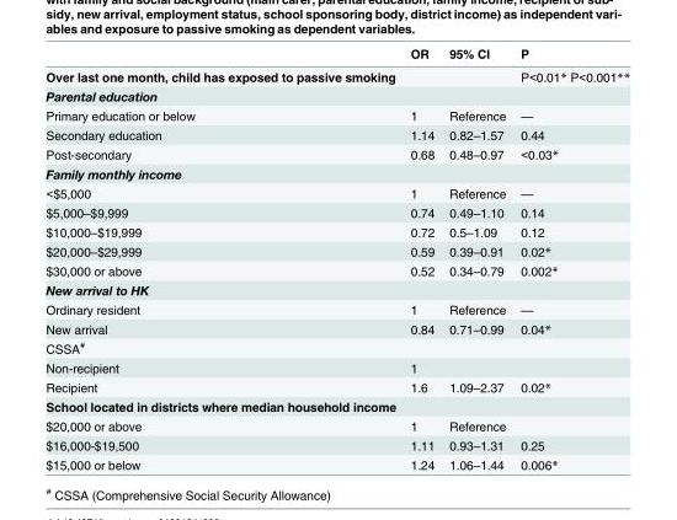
<table><thead><tr><td></td><td>OR</td><td>95% CI</td><td>P</td></tr></thead><tbody><tr><td>Over last one month, child has exposed to passive smoking</td><td></td><td></td><td>P&lt;0.01* P&lt;0.001**</td></tr><tr><td colspan="4">Parental education</td></tr><tr><td>Primary education or below</td><td>1</td><td>Reference</td><td>—</td></tr><tr><td>Secondary education</td><td>1.14</td><td>0.82–1.57</td><td>0.44</td></tr><tr><td>Post-secondary</td><td>0.68</td><td>0.48–0.97</td><td>&lt;0.03*</td></tr><tr><td colspan="4">Family monthly income</td></tr><tr><td>&lt;$5,000</td><td>1</td><td>Reference</td><td>—</td></tr><tr><td>$5,000–$9,999</td><td>0.74</td><td>0.49–1.10</td><td>0.14</td></tr><tr><td>$10,000–$19,999</td><td>0.72</td><td>0.5–1.09</td><td>0.12</td></tr><tr><td>$20,000–$29,999</td><td>0.59</td><td>0.39–0.91</td><td>0.02*</td></tr><tr><td>$30,000 or above</td><td>0.52</td><td>0.34–0.79</td><td>0.002*</td></tr><tr><td colspan="4">New arrival to HK</td></tr><tr><td>Ordinary resident</td><td>1</td><td>Reference</td><td>—</td></tr><tr><td>New arrival</td><td>0.84</td><td>0.71–0.99</td><td>0.04*</td></tr><tr><td colspan="4">CSSA<sup>#</sup></td></tr><tr><td>Non-recipient</td><td>1</td><td></td><td></td></tr><tr><td>Recipient</td><td>1.6</td><td>1.09–2.37</td><td>0.02*</td></tr><tr><td colspan="4">School located in districts where median household income</td></tr><tr><td>$20,000 or above</td><td>1</td><td>Reference</td><td></td></tr><tr><td>$16,000-$19,500</td><td>1.11</td><td>0.93–1.31</td><td>0.25</td></tr><tr><td>$15,000 or below</td><td>1.24</td><td>1.06–1.44</td><td>0.006*</td></tr></tbody></table>